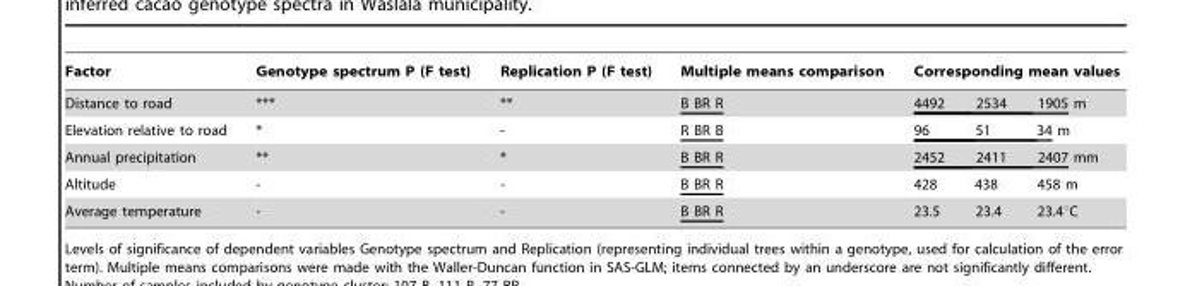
<table><thead><tr><td>Factor</td><td>Genotype spectrum P (F test)</td><td>Replication P (F test)</td><td>Multiple means comparison</td><td>Corresponding mean values</td></tr></thead><tbody><tr><td>Distance to road</td><td>***</td><td>**</td><td>B BR R</td><td>4492 2534 1905 m</td></tr><tr><td>Elevation relative to road</td><td>*</td><td>-</td><td>R BR B</td><td>96 51 34 m</td></tr><tr><td>Annual precipitation</td><td>**</td><td>*</td><td>B BR R</td><td>2452 2411 2407 mm</td></tr><tr><td>Altitude</td><td>-</td><td>-</td><td>B BR R</td><td>428 438 458 m</td></tr><tr><td>Average temperature</td><td>-</td><td>-</td><td>B BR R</td><td>23.5 23.4 23.4°C</td></tr></tbody></table>